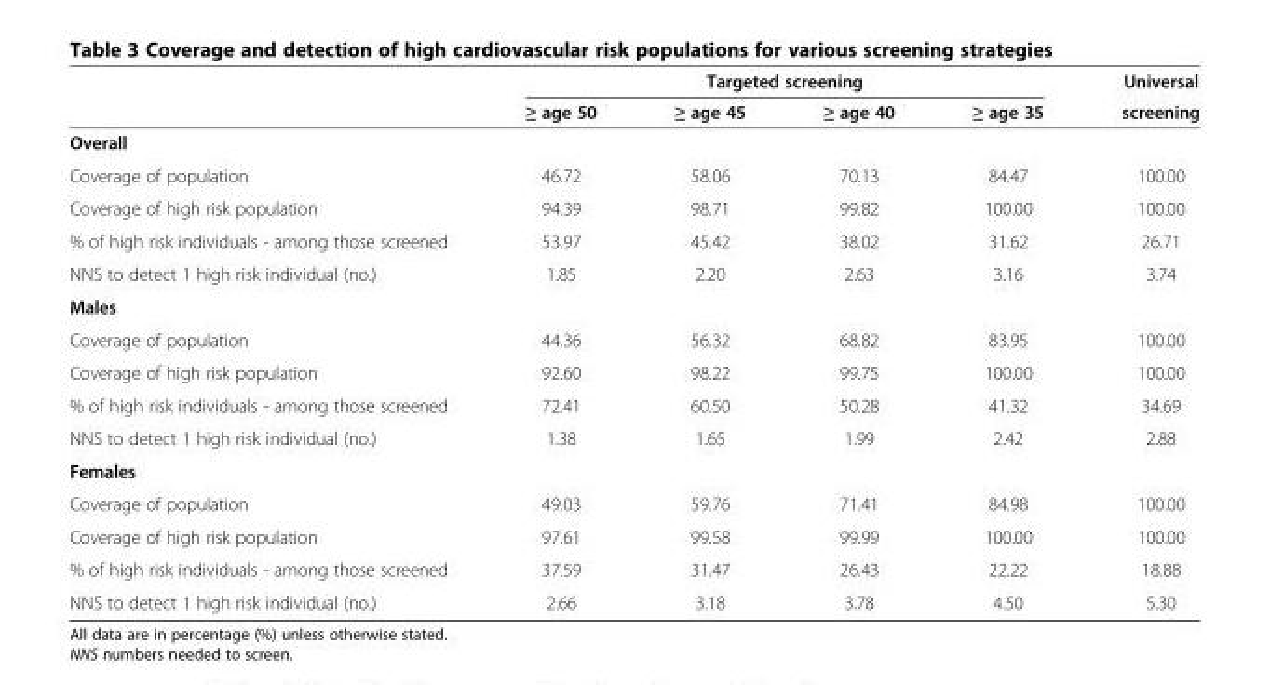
<table><thead><tr><td rowspan="2"></td><td colspan="4">Targeted screening</td><td rowspan="2">Universal screening</td></tr><tr><td>≥ age 50</td><td>≥ age 45</td><td>≥ age 40</td><td>≥ age 35</td></tr></thead><tbody><tr><td colspan="6">Overall</td></tr><tr><td>Coverage of population</td><td>46.72</td><td>58.06</td><td>70.13</td><td>84.47</td><td>100.00</td></tr><tr><td>Coverage of high risk population</td><td>94.39</td><td>98.71</td><td>99.82</td><td>100.00</td><td>100.00</td></tr><tr><td>% of high risk individuals - among those screened</td><td>53.97</td><td>45.42</td><td>38.02</td><td>31.62</td><td>26.71</td></tr><tr><td>NNS to detect 1 high risk individual (no.)</td><td>1.85</td><td>2.20</td><td>2.63</td><td>3.16</td><td>3.74</td></tr><tr><td colspan="6">Males</td></tr><tr><td>Coverage of population</td><td>44.36</td><td>56.32</td><td>68.82</td><td>83.95</td><td>100.00</td></tr><tr><td>Coverage of high risk population</td><td>92.60</td><td>98.22</td><td>99.75</td><td>100.00</td><td>100.00</td></tr><tr><td>% of high risk individuals - among those screened</td><td>72.41</td><td>60.50</td><td>50.28</td><td>41.32</td><td>34.69</td></tr><tr><td>NNS to detect 1 high risk individual (no.)</td><td>1.38</td><td>1.65</td><td>1.99</td><td>2.42</td><td>2.88</td></tr><tr><td colspan="6">Females</td></tr><tr><td>Coverage of population</td><td>49.03</td><td>59.76</td><td>71.41</td><td>84.98</td><td>100.00</td></tr><tr><td>Coverage of high risk population</td><td>97.61</td><td>99.58</td><td>99.99</td><td>100.00</td><td>100.00</td></tr><tr><td>% of high risk individuals - among those screened</td><td>37.59</td><td>31.47</td><td>26.43</td><td>22.22</td><td>18.88</td></tr><tr><td>NNS to detect 1 high risk individual (no.)</td><td>2.66</td><td>3.18</td><td>3.78</td><td>4.50</td><td>5.30</td></tr></tbody></table>